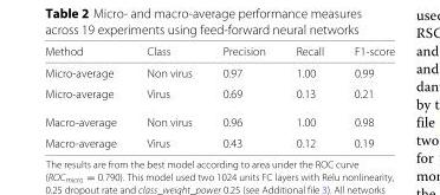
<table><thead><tr><td>Method</td><td>Class</td><td>Precision</td><td>Recall</td><td>F1-score</td></tr></thead><tbody><tr><td>Micro-average</td><td>Non virus</td><td>0.97</td><td>1.00</td><td>0.99</td></tr><tr><td>Micro-average</td><td>Virus</td><td>0.69</td><td>0.13</td><td>0.21</td></tr><tr><td>Macro-average</td><td>Non virus</td><td>0.96</td><td>1.00</td><td>0.98</td></tr><tr><td>Macro-average</td><td>Virus</td><td>0.43</td><td>0.12</td><td>0.19</td></tr></tbody></table>